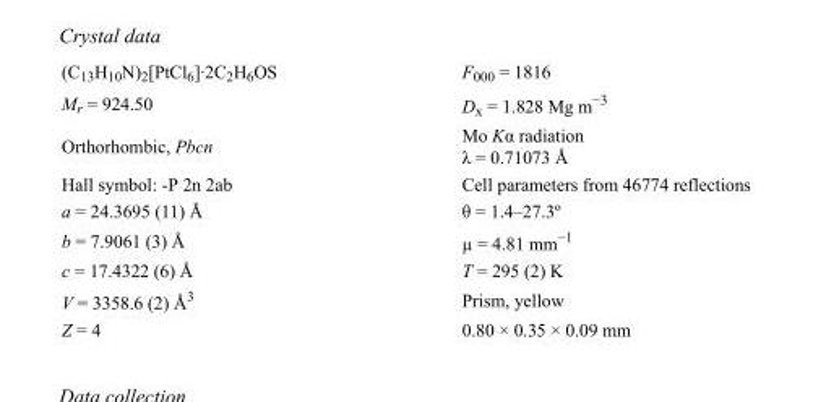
<table><tbody><tr><td>(C<sub>13</sub>H<sub>10</sub>N)<sub>2</sub>[PtCl<sub>6</sub>]·2C<sub>2</sub>H<sub>6</sub>OS</td><td>F000 = 1816</td></tr><tr><td>M<sub>r</sub> = 924.50</td><td>D<sub>x</sub> = 1.828 Mg m<sup>−3</sup></td></tr><tr><td>Orthorhombic, Pbcn</td><td>Mo Kα radiation λ = 0.71073 Å</td></tr><tr><td>Hall symbol: -P 2n 2ab</td><td>Cell parameters from 46774 reflections</td></tr><tr><td>a = 24.3695 (11) Å</td><td>θ = 1.4–27.3º</td></tr><tr><td>b = 7.9061 (3) Å</td><td>µ = 4.81 mm<sup>−1</sup></td></tr><tr><td>c = 17.4322 (6) Å</td><td>T = 295 (2) K</td></tr><tr><td>V = 3358.6 (2) Å<sup>3</sup></td><td>Prism, yellow</td></tr><tr><td>Z = 4</td><td>0.80 × 0.35 × 0.09 mm</td></tr></tbody></table>